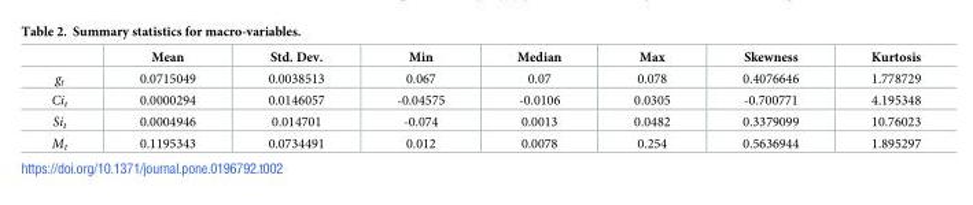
<table><thead><tr><td></td><td>Mean</td><td>Std. Dev.</td><td>Min</td><td>Median</td><td>Max</td><td>Skewness</td><td>Kurtosis</td></tr></thead><tbody><tr><td>g<sub>t</sub></td><td>0.0715049</td><td>0.0038513</td><td>0.067</td><td>0.07</td><td>0.078</td><td>0.4076646</td><td>1.778729</td></tr><tr><td>Ci<sub>t</sub></td><td>0.0000294</td><td>0.0146057</td><td>-0.04575</td><td>-0.0106</td><td>0.0305</td><td>-0.700771</td><td>4.195348</td></tr><tr><td>Si<sub>t</sub></td><td>0.0004946</td><td>0.014701</td><td>-0.074</td><td>0.0013</td><td>0.0482</td><td>0.3379099</td><td>10.76023</td></tr><tr><td>M<sub>t</sub></td><td>0.1195343</td><td>0.0734491</td><td>0.012</td><td>0.0078</td><td>0.254</td><td>0.5636944</td><td>1.895297</td></tr></tbody></table>